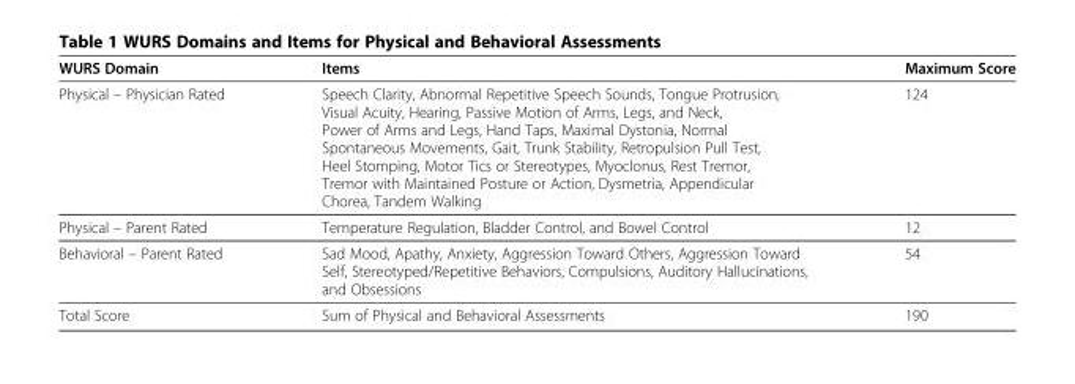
<table><thead><tr><td>WURS Domain</td><td>Items</td><td>Maximum Score</td></tr></thead><tbody><tr><td>Physical – Physician Rated</td><td>Speech Clarity, Abnormal Repetitive Speech Sounds, Tongue Protrusion, Visual Acuity, Hearing, Passive Motion of Arms, Legs, and Neck, Power of Arms and Legs, Hand Taps, Maximal Dystonia, Normal Spontaneous Movements, Gait, Trunk Stability, Retropulsion Pull Test, Heel Stomping, Motor Tics or Stereotypes, Myoclonus, Rest Tremor, Tremor with Maintained Posture or Action, Dysmetria, Appendicular Chorea, Tandem Walking</td><td>124</td></tr><tr><td>Physical – Parent Rated</td><td>Temperature Regulation, Bladder Control, and Bowel Control</td><td>12</td></tr><tr><td>Behavioral – Parent Rated</td><td>Sad Mood, Apathy, Anxiety, Aggression Toward Others, Aggression Toward Self, Stereotyped/Repetitive Behaviors, Compulsions, Auditory Hallucinations, and Obsessions</td><td>54</td></tr><tr><td>Total Score</td><td>Sum of Physical and Behavioral Assessments</td><td>190</td></tr></tbody></table>